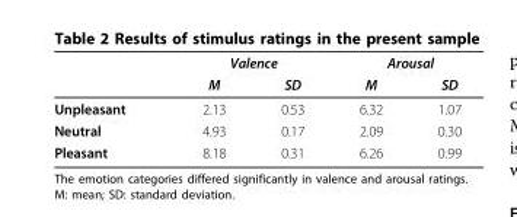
<table><thead><tr><td rowspan="2"></td><td colspan="2">Valence</td><td colspan="2">Arousal</td></tr><tr><td>M</td><td>SD</td><td>M</td><td>SD</td></tr></thead><tbody><tr><td>Unpleasant</td><td>2.13</td><td>0.53</td><td>6.32</td><td>1.07</td></tr><tr><td>Neutral</td><td>4.93</td><td>0.17</td><td>2.09</td><td>0.30</td></tr><tr><td>Pleasant</td><td>8.18</td><td>0.31</td><td>6.26</td><td>0.99</td></tr></tbody></table>